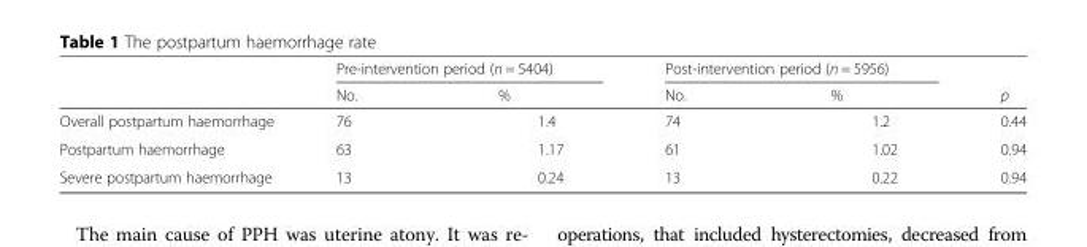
<table><thead><tr><td rowspan="2"></td><td colspan="2">Pre-intervention period (n = 5404)</td><td colspan="2">Post-intervention period (n = 5956)</td><td rowspan="2">p</td></tr><tr><td>No.</td><td>%</td><td>No.</td><td>%</td></tr></thead><tbody><tr><td>Overall postpartum haemorrhage</td><td>76</td><td>1.4</td><td>74</td><td>1.2</td><td>0.44</td></tr><tr><td>Postpartum haemorrhage</td><td>63</td><td>1.17</td><td>61</td><td>1.02</td><td>0.94</td></tr><tr><td>Severe postpartum haemorrhage</td><td>13</td><td>0.24</td><td>13</td><td>0.22</td><td>0.94</td></tr></tbody></table>